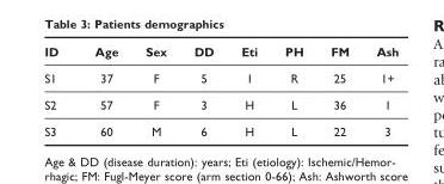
<table><thead><tr><td>ID</td><td>Age</td><td>Sex</td><td>DD</td><td>Eti</td><td>PH</td><td>FM</td><td>Ash</td></tr></thead><tbody><tr><td>S1</td><td>37</td><td>F</td><td>5</td><td>I</td><td>R</td><td>25</td><td>1+</td></tr><tr><td>S2</td><td>57</td><td>F</td><td>3</td><td>H</td><td>L</td><td>36</td><td>1</td></tr><tr><td>S3</td><td>60</td><td>M</td><td>6</td><td>H</td><td>L</td><td>22</td><td>3</td></tr></tbody></table>